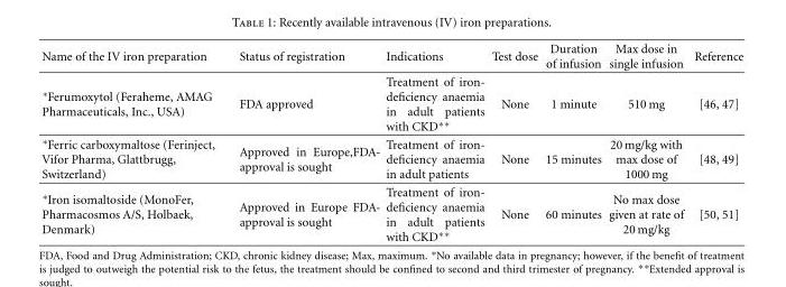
<table><thead><tr><td>Name of the IV iron preparation</td><td>Status of registration</td><td>Indications</td><td>Test dose</td><td>Duration of infusion</td><td>Max dose in single infusion</td><td>Reference</td></tr></thead><tbody><tr><td>∗Ferumoxytol (Feraheme, AMAG Pharmaceuticals, Inc., USA)</td><td>FDA approved</td><td>Treatment of iron- deficiency anaemia in adult patients with CKD∗∗</td><td>None</td><td>1 minute</td><td>510 mg</td><td>[46, 47]</td></tr><tr><td>∗Ferric carboxymaltose (Ferinject, Vifor Pharma, Glattbrugg, Switzerland)</td><td>Approved in Europe,FDA- approval is sought</td><td>Treatment of iron- deficiency anaemia in adult patients</td><td>None</td><td>15 minutes</td><td>20 mg/kg with max dose of 1000 mg</td><td>[48, 49]</td></tr><tr><td>∗Iron isomaltoside (MonoFer, Pharmacosmos A/S, Holbaek, Denmark)</td><td>Approved in Europe FDA- approval is sought</td><td>Treatment of iron- deficiency anaemia in adult patients with CKD∗∗</td><td>None</td><td>60 minutes</td><td>No max dose given at rate of 20 mg/kg</td><td>[50, 51]</td></tr></tbody></table>